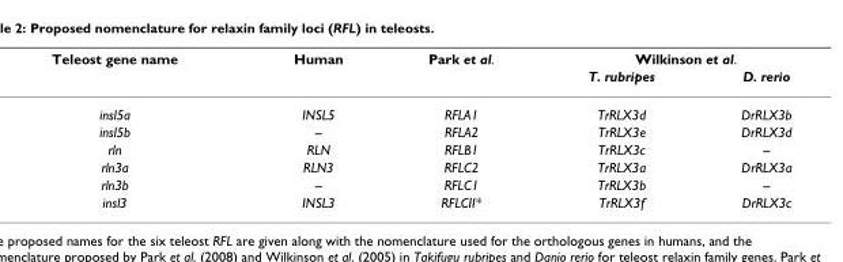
<table><thead><tr><td rowspan="2">Teleost gene name</td><td rowspan="2">Human</td><td rowspan="2">Park et al.</td><td colspan="2">Wilkinson et al.</td></tr><tr><td>T. rubripes</td><td>D. rerio</td></tr></thead><tbody><tr><td>insl5a</td><td>INSL5</td><td>RFLA1</td><td>TrRLX3d</td><td>DrRLX3b</td></tr><tr><td>insl5b</td><td>--</td><td>RFLA2</td><td>TrRLX3e</td><td>DrRLX3d</td></tr><tr><td>rln</td><td>RLN</td><td>RFLB1</td><td>TrRLX3c</td><td>--</td></tr><tr><td>rln3a</td><td>RLN3</td><td>RFLC2</td><td>TrRLX3a</td><td>DrRLX3a</td></tr><tr><td>rln3b</td><td>--</td><td>RFLC1</td><td>TrRLX3b</td><td>--</td></tr><tr><td>insl3</td><td>INSL3</td><td>RFLCII*</td><td>TrRLX3f</td><td>DrRLX3c</td></tr></tbody></table>